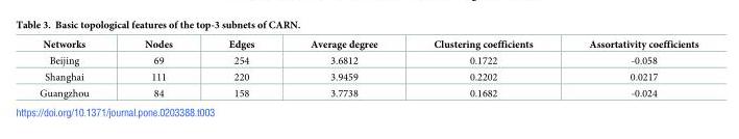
<table><thead><tr><td>Networks</td><td>Nodes</td><td>Edges</td><td>Average degree</td><td>Clustering coefficients</td><td>Assortativity coefficients</td></tr></thead><tbody><tr><td>Beijing</td><td>69</td><td>254</td><td>3.6812</td><td>0.1722</td><td>-0.058</td></tr><tr><td>Shanghai</td><td>111</td><td>220</td><td>3.9459</td><td>0.2202</td><td>0.0217</td></tr><tr><td>Guangzhou</td><td>84</td><td>158</td><td>3.7738</td><td>0.1682</td><td>-0.024</td></tr></tbody></table>